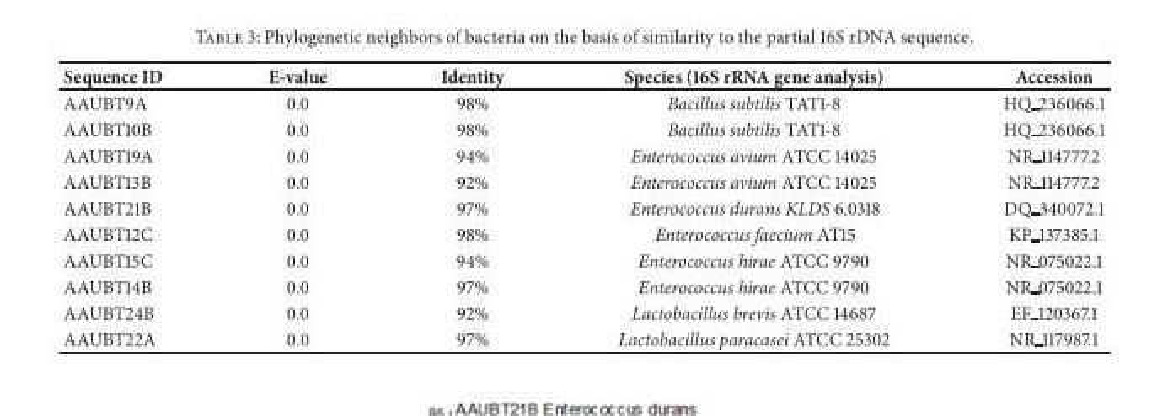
<table><thead><tr><td>Sequence ID</td><td>E-value</td><td>Identity</td><td>Species (16S rRNA gene analysis)</td><td>Accession</td></tr></thead><tbody><tr><td>AAUBT9A</td><td>0.0</td><td>98%</td><td>Bacillus subtilis TAT1-8</td><td>HQ 236066.1</td></tr><tr><td>AAUBT10B</td><td>0.0</td><td>98%</td><td>Bacillus subtilis TAT1-8</td><td>HQ 236066.1</td></tr><tr><td>AAUBT19A</td><td>0.0</td><td>94%</td><td>Enterococcus avium ATCC 14025</td><td>NR 114777.2</td></tr><tr><td>AAUBT13B</td><td>0.0</td><td>92%</td><td>Enterococcus avium ATCC 14025</td><td>NR 114777.2</td></tr><tr><td>AAUBT21B</td><td>0.0</td><td>97%</td><td>Enterococcus durans KLDS 6.0318</td><td>DQ 340072.1</td></tr><tr><td>AAUBT12C</td><td>0.0</td><td>98%</td><td>Enterococcus faecium AT15</td><td>KP 137385.1</td></tr><tr><td>AAUBT15C</td><td>0.0</td><td>94%</td><td>Enterococcus hirae ATCC 9790</td><td>NR 075022.1</td></tr><tr><td>AAUBT14B</td><td>0.0</td><td>97%</td><td>Enterococcus hirae ATCC 9790</td><td>NR 075022.1</td></tr><tr><td>AAUBT24B</td><td>0.0</td><td>92%</td><td>Lactobacillus brevis ATCC 14687</td><td>EF 120367.1</td></tr><tr><td>AAUBT22A</td><td>0.0</td><td>97%</td><td>Lactobacillus paracasei ATCC 25302</td><td>NR 117987.1</td></tr></tbody></table>